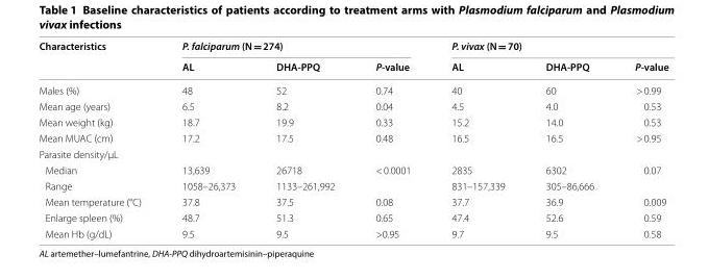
<table><thead><tr><td rowspan="2">Characteristics</td><td colspan="3">P. falciparum (N = 274)</td><td colspan="3">P. vivax (N = 70)</td></tr><tr><td>AL</td><td>DHA‑PPQ</td><td>P‑value</td><td>AL</td><td>DHA‑PPQ</td><td>P‑value</td></tr></thead><tbody><tr><td>Males (%)</td><td>48</td><td>52</td><td>0.74</td><td>40</td><td>60</td><td>&gt; 0.99</td></tr><tr><td>Mean age (years)</td><td>6.5</td><td>8.2</td><td>0.04</td><td>4.5</td><td>4.0</td><td>0.53</td></tr><tr><td>Mean weight (kg)</td><td>18.7</td><td>19.9</td><td>0.33</td><td>15.2</td><td>14.0</td><td>0.53</td></tr><tr><td>Mean MUAC (cm)</td><td>17.2</td><td>17.5</td><td>0.48</td><td>16.5</td><td>16.5</td><td>&gt; 0.95</td></tr><tr><td colspan="7">Parasite density/µL</td></tr><tr><td>Median</td><td>13,639</td><td>26718</td><td>&lt; 0.0001</td><td>2835</td><td>6302</td><td>0.07</td></tr><tr><td>Range</td><td>1058–26,373</td><td>1133–261,992</td><td></td><td>831–157,339</td><td>305–86,666</td><td></td></tr><tr><td>Mean temperature (°C)</td><td>37.8</td><td>37.5</td><td>0.08</td><td>37.7</td><td>36.9</td><td>0.009</td></tr><tr><td>Enlarge spleen (%)</td><td>48.7</td><td>51.3</td><td>0.65</td><td>47.4</td><td>52.6</td><td>0.59</td></tr><tr><td>Mean Hb (g/dL)</td><td>9.5</td><td>9.5</td><td>&gt;0.95</td><td>9.7</td><td>9.5</td><td>0.58</td></tr></tbody></table>